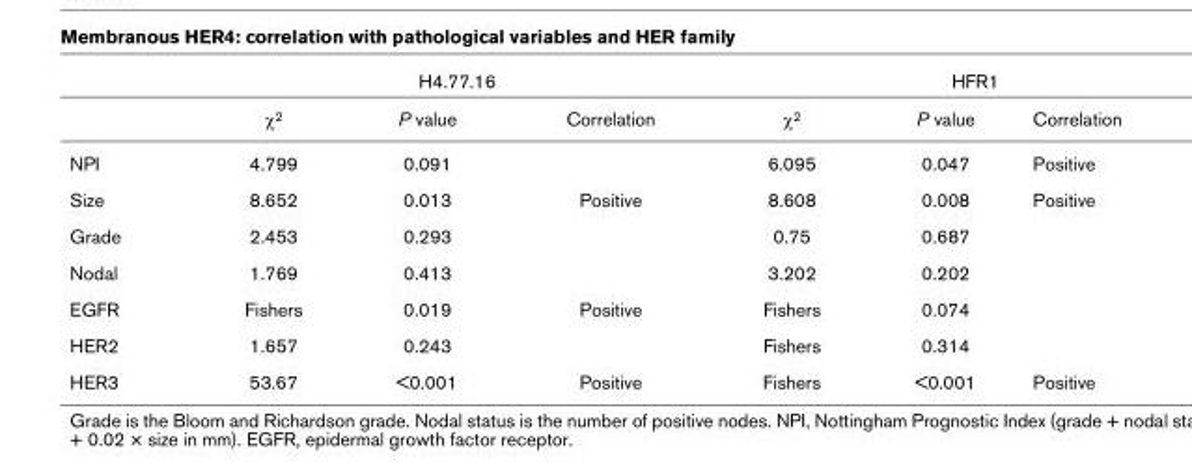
<table><thead><tr><td rowspan="2"></td><td colspan="3">H4.77.16</td><td colspan="3">HFR1</td></tr><tr><td>χ2</td><td>P value</td><td>Correlation</td><td>χ2</td><td>P value</td><td>Correlation</td></tr></thead><tbody><tr><td>NPI</td><td>4.799</td><td>0.091</td><td></td><td>6.095</td><td>0.047</td><td>Positive</td></tr><tr><td>Size</td><td>8.652</td><td>0.013</td><td>Positive</td><td>8.608</td><td>0.008</td><td>Positive</td></tr><tr><td>Grade</td><td>2.453</td><td>0.293</td><td></td><td>0.75</td><td>0.687</td><td></td></tr><tr><td>Nodal</td><td>1.769</td><td>0.413</td><td></td><td>3.202</td><td>0.202</td><td></td></tr><tr><td>EGFR</td><td>Fishers</td><td>0.019</td><td>Positive</td><td>Fishers</td><td>0.074</td><td></td></tr><tr><td>HER2</td><td>1.657</td><td>0.243</td><td></td><td>Fishers</td><td>0.314</td><td></td></tr><tr><td>HER3</td><td>53.67</td><td>&lt;0.001</td><td>Positive</td><td>Fishers</td><td>&lt;0.001</td><td>Positive</td></tr></tbody></table>